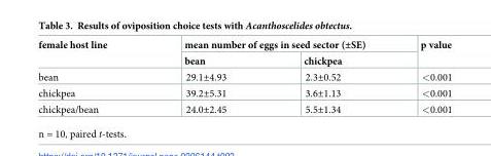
<table><thead><tr><td rowspan="2">female host line</td><td colspan="2">mean number of eggs in seed sector (±SE)</td><td rowspan="2">p value</td></tr><tr><td>bean</td><td>chickpea</td></tr></thead><tbody><tr><td>bean</td><td>29.1±4.93</td><td>2.3±0.52</td><td>&lt;0.001</td></tr><tr><td>chickpea</td><td>39.2±5.31</td><td>3.6±1.13</td><td>&lt;0.001</td></tr><tr><td>chickpea/bean</td><td>24.0±2.45</td><td>5.5±1.34</td><td>&lt;0.001</td></tr></tbody></table>